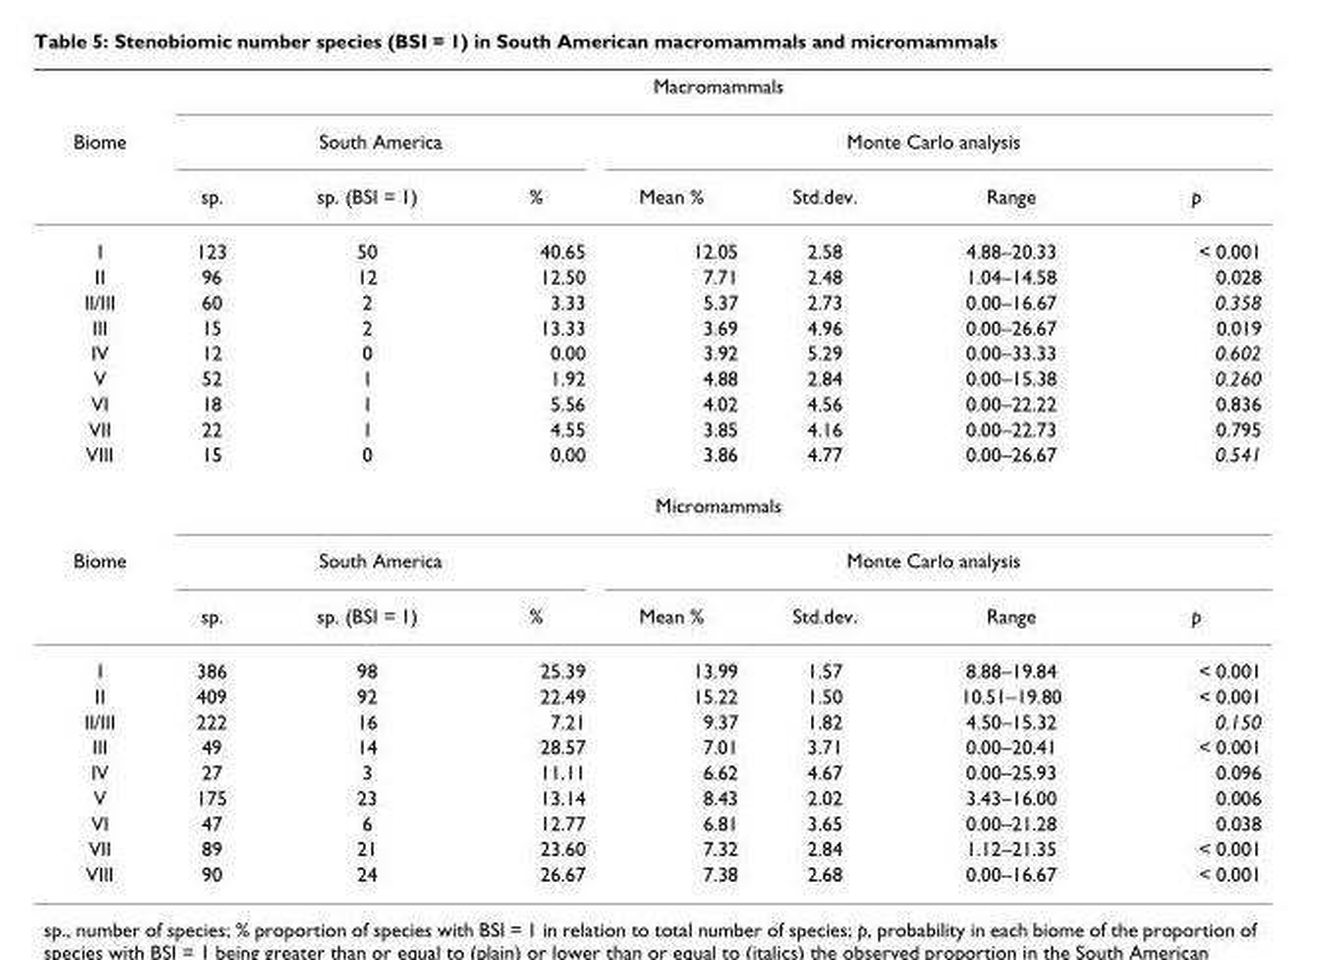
<table><thead><tr><td rowspan="3">Biome</td><td colspan="7">Macromammals</td></tr><tr><td colspan="3">South America</td><td colspan="4">Monte Carlo analysis</td></tr><tr><td>sp.</td><td>sp. (BSI = 1)</td><td>%</td><td>Mean %</td><td>Std.dev.</td><td>Range</td><td>p</td></tr></thead><tbody><tr><td>I</td><td>123</td><td>50</td><td>40.65</td><td>12.05</td><td>2.58</td><td>4.88–20.33</td><td>&lt; 0.001</td></tr><tr><td>II</td><td>96</td><td>12</td><td>12.50</td><td>7.71</td><td>2.48</td><td>1.04–14.58</td><td>0.028</td></tr><tr><td>II/III</td><td>60</td><td>2</td><td>3.33</td><td>5.37</td><td>2.73</td><td>0.00–16.67</td><td>0.358</td></tr><tr><td>III</td><td>15</td><td>2</td><td>13.33</td><td>3.69</td><td>4.96</td><td>0.00–26.67</td><td>0.019</td></tr><tr><td>IV</td><td>12</td><td>0</td><td>0.00</td><td>3.92</td><td>5.29</td><td>0.00–33.33</td><td>0.602</td></tr><tr><td>V</td><td>52</td><td>1</td><td>1.92</td><td>4.88</td><td>2.84</td><td>0.00–15.38</td><td>0.260</td></tr><tr><td>VI</td><td>18</td><td>1</td><td>5.56</td><td>4.02</td><td>4.56</td><td>0.00–22.22</td><td>0.836</td></tr><tr><td>VII</td><td>22</td><td>1</td><td>4.55</td><td>3.85</td><td>4.16</td><td>0.00–22.73</td><td>0.795</td></tr><tr><td rowspan="2">VIII</td><td>15</td><td>0</td><td>0.00</td><td>3.86</td><td>4.77</td><td>0.00–26.67</td><td>0.541</td></tr><tr><td colspan="7">Micromammals</td></tr><tr><td rowspan="2">Biome</td><td colspan="3">South America</td><td colspan="4">Monte Carlo analysis</td></tr><tr><td>sp.</td><td>sp. (BSI = 1)</td><td>%</td><td>Mean %</td><td>Std.dev.</td><td>Range</td><td>p</td></tr><tr><td>I</td><td>386</td><td>98</td><td>25.39</td><td>13.99</td><td>1.57</td><td>8.88–19.84</td><td>&lt; 0.001</td></tr><tr><td>II</td><td>409</td><td>92</td><td>22.49</td><td>15.22</td><td>1.50</td><td>10.51–19.80</td><td>&lt; 0.001</td></tr><tr><td>II/III</td><td>222</td><td>16</td><td>7.21</td><td>9.37</td><td>1.82</td><td>4.50–15.32</td><td>0.150</td></tr><tr><td>III</td><td>49</td><td>14</td><td>28.57</td><td>7.01</td><td>3.71</td><td>0.00–20.41</td><td>&lt; 0.001</td></tr><tr><td>IV</td><td>27</td><td>3</td><td>11.11</td><td>6.62</td><td>4.67</td><td>0.00–25.93</td><td>0.096</td></tr><tr><td>V</td><td>175</td><td>23</td><td>13.14</td><td>8.43</td><td>2.02</td><td>3.43–16.00</td><td>0.006</td></tr><tr><td>VI</td><td>47</td><td>6</td><td>12.77</td><td>6.81</td><td>3.65</td><td>0.00–21.28</td><td>0.038</td></tr><tr><td>VII</td><td>89</td><td>21</td><td>23.60</td><td>7.32</td><td>2.84</td><td>1.12–21.35</td><td>&lt; 0.001</td></tr><tr><td>VIII</td><td>90</td><td>24</td><td>26.67</td><td>7.38</td><td>2.68</td><td>0.00–16.67</td><td>&lt; 0.001</td></tr></tbody></table>